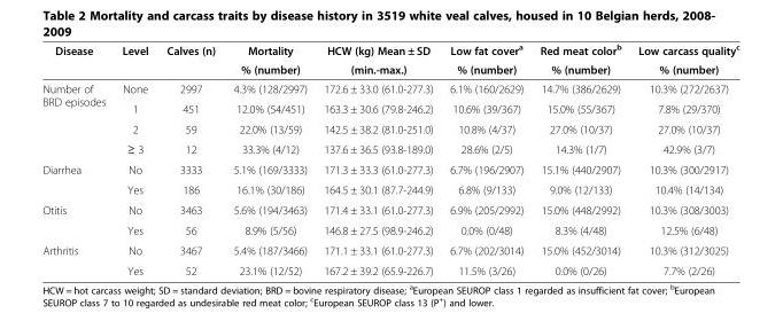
<table><thead><tr><td rowspan="2">Disease</td><td rowspan="2">Level</td><td rowspan="2">Calves (n)</td><td rowspan="2">Mortality % (number)</td><td rowspan="2">HCW (kg) Mean ± SD (min.-max.)</td><td rowspan="2">Low fat cover<sup>a</sup> % (number)</td><td rowspan="2">Red meat color<sup>b</sup> % (number)</td><td rowspan="2">Low carcass quality<sup>c</sup> % (number)</td></tr><tr></tr></thead><tbody><tr><td rowspan="4">Number of BRD episodes</td><td>None</td><td>2997</td><td>4.3% (128/2997)</td><td>172.6 ± 33.0 (61.0-277.3)</td><td>6.1% (160/2629)</td><td>14.7% (386/2629)</td><td>10.3% (272/2637)</td></tr><tr><td>1</td><td>451</td><td>12.0% (54/451)</td><td>163.3 ± 30.6 (79.8-246.2)</td><td>10.6% (39/367)</td><td>15.0% (55/367)</td><td>7.8% (29/370)</td></tr><tr><td>2</td><td>59</td><td>22.0% (13/59)</td><td>142.5 ± 38.2 (81.0-251.0)</td><td>10.8% (4/37)</td><td>27.0% (10/37)</td><td>27.0% (10/37)</td></tr><tr><td>≥ 3</td><td>12</td><td>33.3% (4/12)</td><td>137.6 ± 36.5 (93.8-189.0)</td><td>28.6% (2/5)</td><td>14.3% (1/7)</td><td>42.9% (3/7)</td></tr><tr><td rowspan="2">Diarrhea</td><td>No</td><td>3333</td><td>5.1% (169/3333)</td><td>171.3 ± 33.3 (61.0-277.3)</td><td>6.7% (196/2907)</td><td>15.1% (440/2907)</td><td>10.3% (300/2917)</td></tr><tr><td>Yes</td><td>186</td><td>16.1% (30/186)</td><td>164.5 ± 30.1 (87.7-244.9)</td><td>6.8% (9/133)</td><td>9.0% (12/133)</td><td>10.4% (14/134)</td></tr><tr><td rowspan="2">Otitis</td><td>No</td><td>3463</td><td>5.6% (194/3463)</td><td>171.4 ± 33.1 (61.0-277.3)</td><td>6.9% (205/2992)</td><td>15.0% (448/2992)</td><td>10.3% (308/3003)</td></tr><tr><td>Yes</td><td>56</td><td>8.9% (5/56)</td><td>146.8 ± 27.5 (98.9-246.2)</td><td>0.0% (0/48)</td><td>8.3% (4/48)</td><td>12.5% (6/48)</td></tr><tr><td rowspan="2">Arthritis</td><td>No</td><td>3467</td><td>5.4% (187/3466)</td><td>171.1 ± 33.1 (61.0-277.3)</td><td>6.7% (202/3014)</td><td>15.0% (452/3014)</td><td>10.3% (312/3025)</td></tr><tr><td>Yes</td><td>52</td><td>23.1% (12/52)</td><td>167.2 ± 39.2 (65.9-226.7)</td><td>11.5% (3/26)</td><td>0.0% (0/26)</td><td>7.7% (2/26)</td></tr></tbody></table>